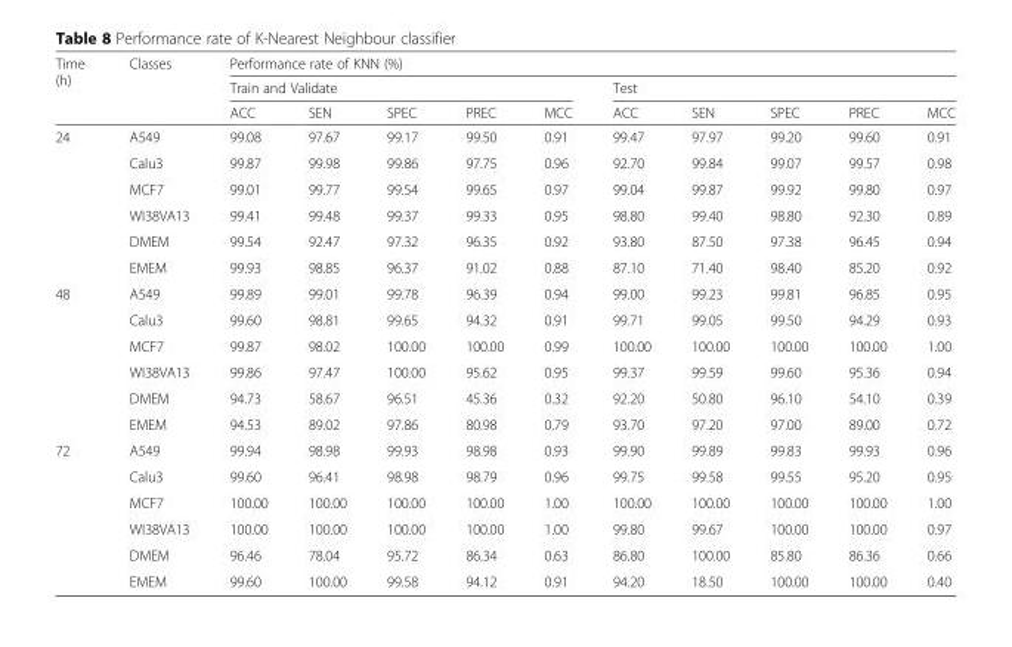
<table><thead><tr><td rowspan="3">Time (h)</td><td rowspan="3">Classes</td><td colspan="10">Performance rate of KNN (%)</td></tr><tr><td colspan="5">Train and Validate</td><td colspan="5">Test</td></tr><tr><td>ACC</td><td>SEN</td><td>SPEC</td><td>PREC</td><td>MCC</td><td>ACC</td><td>SEN</td><td>SPEC</td><td>PREC</td><td>MCC</td></tr></thead><tbody><tr><td rowspan="6">24</td><td>A549</td><td>99.08</td><td>97.67</td><td>99.17</td><td>99.50</td><td>0.91</td><td>99.47</td><td>97.97</td><td>99.20</td><td>99.60</td><td>0.91</td></tr><tr><td>Calu3</td><td>99.87</td><td>99.98</td><td>99.86</td><td>97.75</td><td>0.96</td><td>92.70</td><td>99.84</td><td>99.07</td><td>99.57</td><td>0.98</td></tr><tr><td>MCF7</td><td>99.01</td><td>99.77</td><td>99.54</td><td>99.65</td><td>0.97</td><td>99.04</td><td>99.87</td><td>99.92</td><td>99.80</td><td>0.97</td></tr><tr><td>WI38VA13</td><td>99.41</td><td>99.48</td><td>99.37</td><td>99.33</td><td>0.95</td><td>98.80</td><td>99.40</td><td>98.80</td><td>92.30</td><td>0.89</td></tr><tr><td>DMEM</td><td>99.54</td><td>92.47</td><td>97.32</td><td>96.35</td><td>0.92</td><td>93.80</td><td>87.50</td><td>97.38</td><td>96.45</td><td>0.94</td></tr><tr><td>EMEM</td><td>99.93</td><td>98.85</td><td>96.37</td><td>91.02</td><td>0.88</td><td>87.10</td><td>71.40</td><td>98.40</td><td>85.20</td><td>0.92</td></tr><tr><td rowspan="6">48</td><td>A549</td><td>99.89</td><td>99.01</td><td>99.78</td><td>96.39</td><td>0.94</td><td>99.00</td><td>99.23</td><td>99.81</td><td>96.85</td><td>0.95</td></tr><tr><td>Calu3</td><td>99.60</td><td>98.81</td><td>99.65</td><td>94.32</td><td>0.91</td><td>99.71</td><td>99.05</td><td>99.50</td><td>94.29</td><td>0.93</td></tr><tr><td>MCF7</td><td>99.87</td><td>98.02</td><td>100.00</td><td>100.00</td><td>0.99</td><td>100.00</td><td>100.00</td><td>100.00</td><td>100.00</td><td>1.00</td></tr><tr><td>WI38VA13</td><td>99.86</td><td>97.47</td><td>100.00</td><td>95.62</td><td>0.95</td><td>99.37</td><td>99.59</td><td>99.60</td><td>95.36</td><td>0.94</td></tr><tr><td>DMEM</td><td>94.73</td><td>58.67</td><td>96.51</td><td>45.36</td><td>0.32</td><td>92.20</td><td>50.80</td><td>96.10</td><td>54.10</td><td>0.39</td></tr><tr><td>EMEM</td><td>94.53</td><td>89.02</td><td>97.86</td><td>80.98</td><td>0.79</td><td>93.70</td><td>97.20</td><td>97.00</td><td>89.00</td><td>0.72</td></tr><tr><td rowspan="6">72</td><td>A549</td><td>99.94</td><td>98.98</td><td>99.93</td><td>98.98</td><td>0.93</td><td>99.90</td><td>99.89</td><td>99.83</td><td>99.93</td><td>0.96</td></tr><tr><td>Calu3</td><td>99.60</td><td>96.41</td><td>98.98</td><td>98.79</td><td>0.96</td><td>99.75</td><td>99.58</td><td>99.55</td><td>95.20</td><td>0.95</td></tr><tr><td>MCF7</td><td>100.00</td><td>100.00</td><td>100.00</td><td>100.00</td><td>1.00</td><td>100.00</td><td>100.00</td><td>100.00</td><td>100.00</td><td>1.00</td></tr><tr><td>WI38VA13</td><td>100.00</td><td>100.00</td><td>100.00</td><td>100.00</td><td>1.00</td><td>99.80</td><td>99.67</td><td>100.00</td><td>100.00</td><td>0.97</td></tr><tr><td>DMEM</td><td>96.46</td><td>78.04</td><td>95.72</td><td>86.34</td><td>0.63</td><td>86.80</td><td>100.00</td><td>85.80</td><td>86.36</td><td>0.66</td></tr><tr><td>EMEM</td><td>99.60</td><td>100.00</td><td>99.58</td><td>94.12</td><td>0.91</td><td>94.20</td><td>18.50</td><td>100.00</td><td>100.00</td><td>0.40</td></tr></tbody></table>